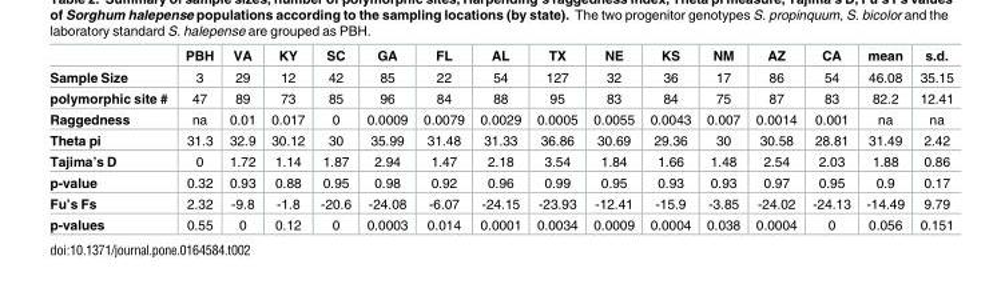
<table><thead><tr><td></td><td>PBH</td><td>VA</td><td>KY</td><td>SC</td><td>GA</td><td>FL</td><td>AL</td><td>TX</td><td>NE</td><td>KS</td><td>NM</td><td>AZ</td><td>CA</td><td>mean</td><td>s.d.</td></tr></thead><tbody><tr><td>Sample Size</td><td>3</td><td>29</td><td>12</td><td>42</td><td>85</td><td>22</td><td>54</td><td>127</td><td>32</td><td>36</td><td>17</td><td>86</td><td>54</td><td>46.08</td><td>35.15</td></tr><tr><td>polymorphic site #</td><td>47</td><td>89</td><td>73</td><td>85</td><td>96</td><td>84</td><td>88</td><td>95</td><td>83</td><td>84</td><td>75</td><td>87</td><td>83</td><td>82.2</td><td>12.41</td></tr><tr><td>Raggedness</td><td>na</td><td>0.01</td><td>0.017</td><td>0</td><td>0.0009</td><td>0.0079</td><td>0.0029</td><td>0.0005</td><td>0.0055</td><td>0.0043</td><td>0.007</td><td>0.0014</td><td>0.001</td><td>na</td><td>na</td></tr><tr><td>Theta pi</td><td>31.3</td><td>32.9</td><td>30.12</td><td>30</td><td>35.99</td><td>31.48</td><td>31.33</td><td>36.86</td><td>30.69</td><td>29.36</td><td>30</td><td>30.58</td><td>28.81</td><td>31.49</td><td>2.42</td></tr><tr><td>Tajima’s D</td><td>0</td><td>1.72</td><td>1.14</td><td>1.87</td><td>2.94</td><td>1.47</td><td>2.18</td><td>3.54</td><td>1.84</td><td>1.66</td><td>1.48</td><td>2.54</td><td>2.03</td><td>1.88</td><td>0.86</td></tr><tr><td>p-value</td><td>0.32</td><td>0.93</td><td>0.88</td><td>0.95</td><td>0.98</td><td>0.92</td><td>0.96</td><td>0.99</td><td>0.95</td><td>0.93</td><td>0.93</td><td>0.97</td><td>0.95</td><td>0.9</td><td>0.17</td></tr><tr><td>Fu’s Fs</td><td>2.32</td><td>-9.8</td><td>-1.8</td><td>-20.6</td><td>-24.08</td><td>-6.07</td><td>-24.15</td><td>-23.93</td><td>-12.41</td><td>-15.9</td><td>-3.85</td><td>-24.02</td><td>-24.13</td><td>-14.49</td><td>9.79</td></tr><tr><td>p-values</td><td>0.55</td><td>0</td><td>0.12</td><td>0</td><td>0.0003</td><td>0.014</td><td>0.0001</td><td>0.0034</td><td>0.0009</td><td>0.0004</td><td>0.038</td><td>0.0004</td><td>0</td><td>0.056</td><td>0.151</td></tr></tbody></table>